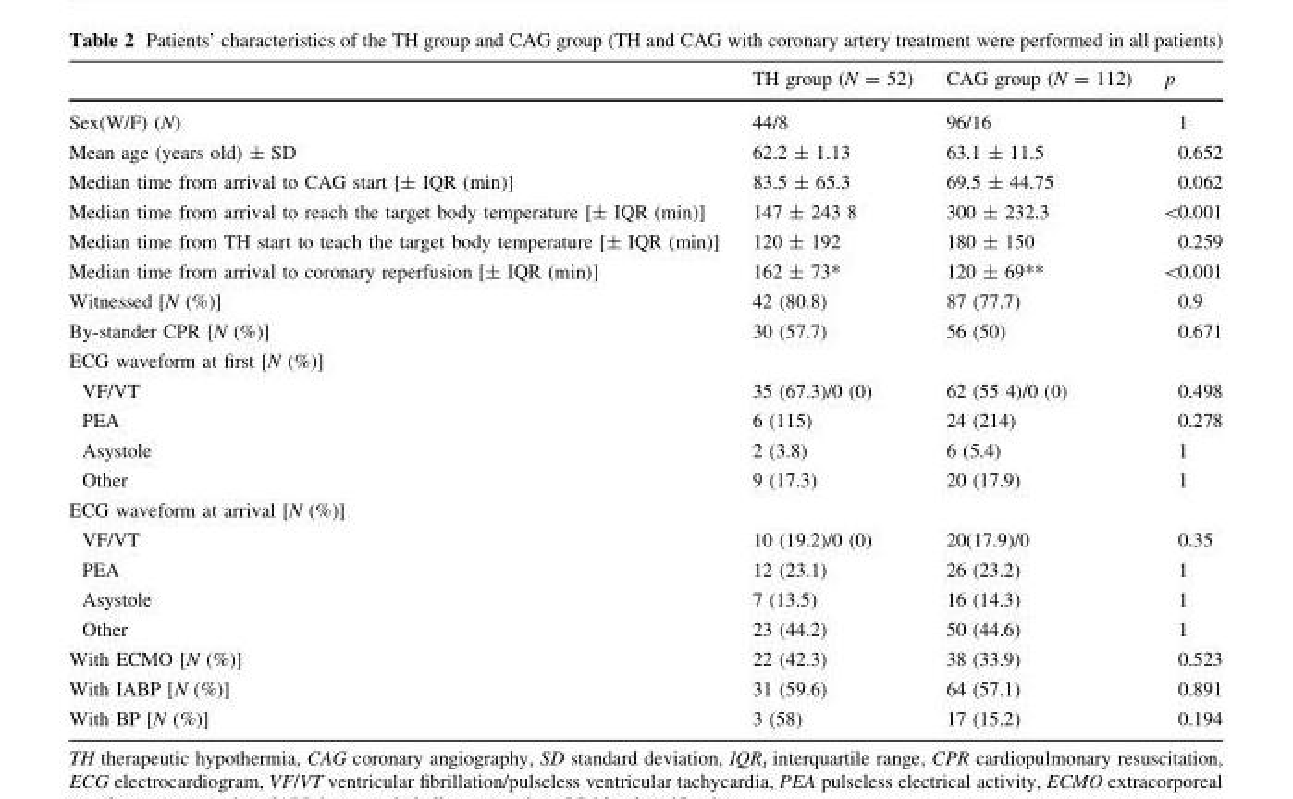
<table><thead><tr><td></td><td>TH group (N = 52)</td><td>CAG group (N = 112)</td><td>p</td></tr></thead><tbody><tr><td>Sex(W/F) (N)</td><td>44/8</td><td>96/16</td><td>1</td></tr><tr><td>Mean age (years old) ± SD</td><td>62.2 ± 1.13</td><td>63.1 ± 11.5</td><td>0.652</td></tr><tr><td>Median time from arrival to CAG start [± IQR (min)]</td><td>83.5 ± 65.3</td><td>69.5 ± 44.75</td><td>0.062</td></tr><tr><td>Median time from arrival to reach the target body temperature [± IQR (min)]</td><td>147 ± 243 8</td><td>300 ± 232.3</td><td>&lt;0.001</td></tr><tr><td>Median time from TH start to teach the target body temperature [± IQR (min)]</td><td>120 ± 192</td><td>180 ± 150</td><td>0.259</td></tr><tr><td>Median time from arrival to coronary reperfusion [± IQR (min)]</td><td>162 ± 73*</td><td>120 ± 69**</td><td>&lt;0.001</td></tr><tr><td>Witnessed [N (%)]</td><td>42 (80.8)</td><td>87 (77.7)</td><td>0.9</td></tr><tr><td>By-stander CPR [N (%)]</td><td>30 (57.7)</td><td>56 (50)</td><td>0.671</td></tr><tr><td colspan="4">ECG waveform at first [N (%)]</td></tr><tr><td>VF/VT</td><td>35 (67.3)/0 (0)</td><td>62 (55 4)/0 (0)</td><td>0.498</td></tr><tr><td>PEA</td><td>6 (115)</td><td>24 (214)</td><td>0.278</td></tr><tr><td>Asystole</td><td>2 (3.8)</td><td>6 (5.4)</td><td>1</td></tr><tr><td>Other</td><td>9 (17.3)</td><td>20 (17.9)</td><td>1</td></tr><tr><td colspan="4">ECG waveform at arrival [N (%)]</td></tr><tr><td>VF/VT</td><td>10 (19.2)/0 (0)</td><td>20(17.9)/0</td><td>0.35</td></tr><tr><td>PEA</td><td>12 (23.1)</td><td>26 (23.2)</td><td>1</td></tr><tr><td>Asystole</td><td>7 (13.5)</td><td>16 (14.3)</td><td>1</td></tr><tr><td>Other</td><td>23 (44.2)</td><td>50 (44.6)</td><td>1</td></tr><tr><td>With ECMO [N (%)]</td><td>22 (42.3)</td><td>38 (33.9)</td><td>0.523</td></tr><tr><td>With IABP [N (%)]</td><td>31 (59.6)</td><td>64 (57.1)</td><td>0.891</td></tr><tr><td>With BP [N (%)]</td><td>3 (58)</td><td>17 (15.2)</td><td>0.194</td></tr></tbody></table>